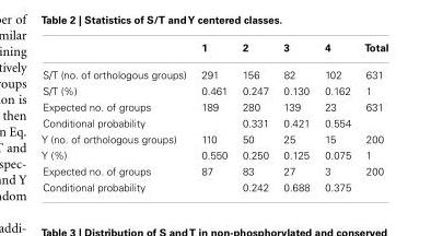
<table><thead><tr><td></td><td>1</td><td>2</td><td>3</td><td>4</td><td>Total</td></tr></thead><tbody><tr><td>S/T (no. of orthologous groups)</td><td>291</td><td>156</td><td>82</td><td>102</td><td>631</td></tr><tr><td>S/T (%)</td><td>0.461</td><td>0.247</td><td>0.130</td><td>0.162</td><td>1</td></tr><tr><td>Expected no. of groups</td><td>189</td><td>280</td><td>139</td><td>23</td><td>631</td></tr><tr><td>Conditional probability</td><td></td><td>0.331</td><td>0.421</td><td>0.554</td><td></td></tr><tr><td>Y (no. of orthologous groups)</td><td>110</td><td>50</td><td>25</td><td>15</td><td>200</td></tr><tr><td>Y (%)</td><td>0.550</td><td>0.250</td><td>0.125</td><td>0.075</td><td>1</td></tr><tr><td>Expected no. of groups</td><td>87</td><td>83</td><td>27</td><td>3</td><td>200</td></tr><tr><td>Conditional probability</td><td></td><td>0.242</td><td>0.688</td><td>0.375</td><td></td></tr></tbody></table>